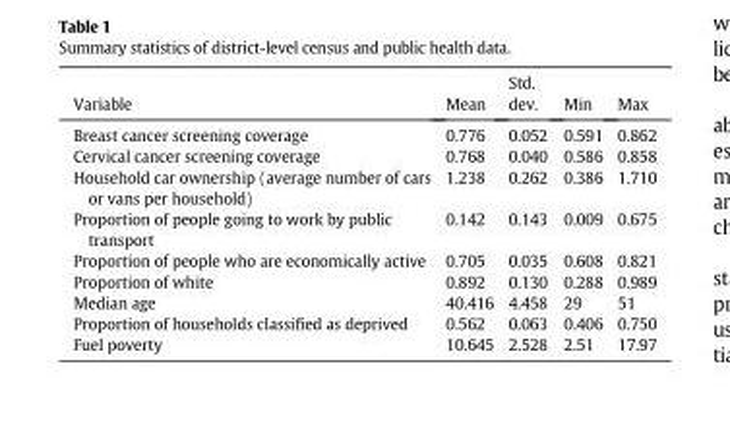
<table><thead><tr><td>Variable</td><td>Mean</td><td>Std. dev.</td><td>Min</td><td>Max</td></tr></thead><tbody><tr><td>Breast cancer screening coverage</td><td>0.776</td><td>0.052</td><td>0.591</td><td>0.862</td></tr><tr><td>Cervical cancer screening coverage</td><td>0.768</td><td>0.040</td><td>0.586</td><td>0.858</td></tr><tr><td>Household car ownership (average number of cars or vans per household)</td><td>1.238</td><td>0.262</td><td>0.386</td><td>1.710</td></tr><tr><td>Proportion of people going to work by public transport</td><td>0.142</td><td>0.143</td><td>0.009</td><td>0.675</td></tr><tr><td>Proportion of people who are economically active</td><td>0.705</td><td>0.035</td><td>0.608</td><td>0.821</td></tr><tr><td>Proportion of white</td><td>0.892</td><td>0.130</td><td>0.288</td><td>0.989</td></tr><tr><td>Median age</td><td>40.416</td><td>4.458</td><td>29</td><td>51</td></tr><tr><td>Proportion of households classified as deprived</td><td>0.562</td><td>0.063</td><td>0.406</td><td>0.750</td></tr><tr><td>Fuel poverty</td><td>10.645</td><td>2.528</td><td>2.51</td><td>17.97</td></tr></tbody></table>